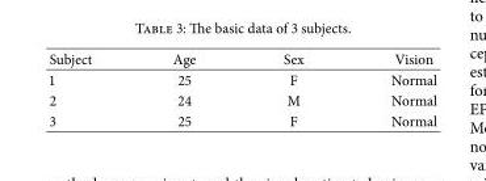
<table><thead><tr><td>Subject</td><td>Age</td><td>Sex</td><td>Vision</td></tr></thead><tbody><tr><td>1</td><td>25</td><td>F</td><td>Normal</td></tr><tr><td>2</td><td>24</td><td>M</td><td>Normal</td></tr><tr><td>3</td><td>25</td><td>F</td><td>Normal</td></tr></tbody></table>